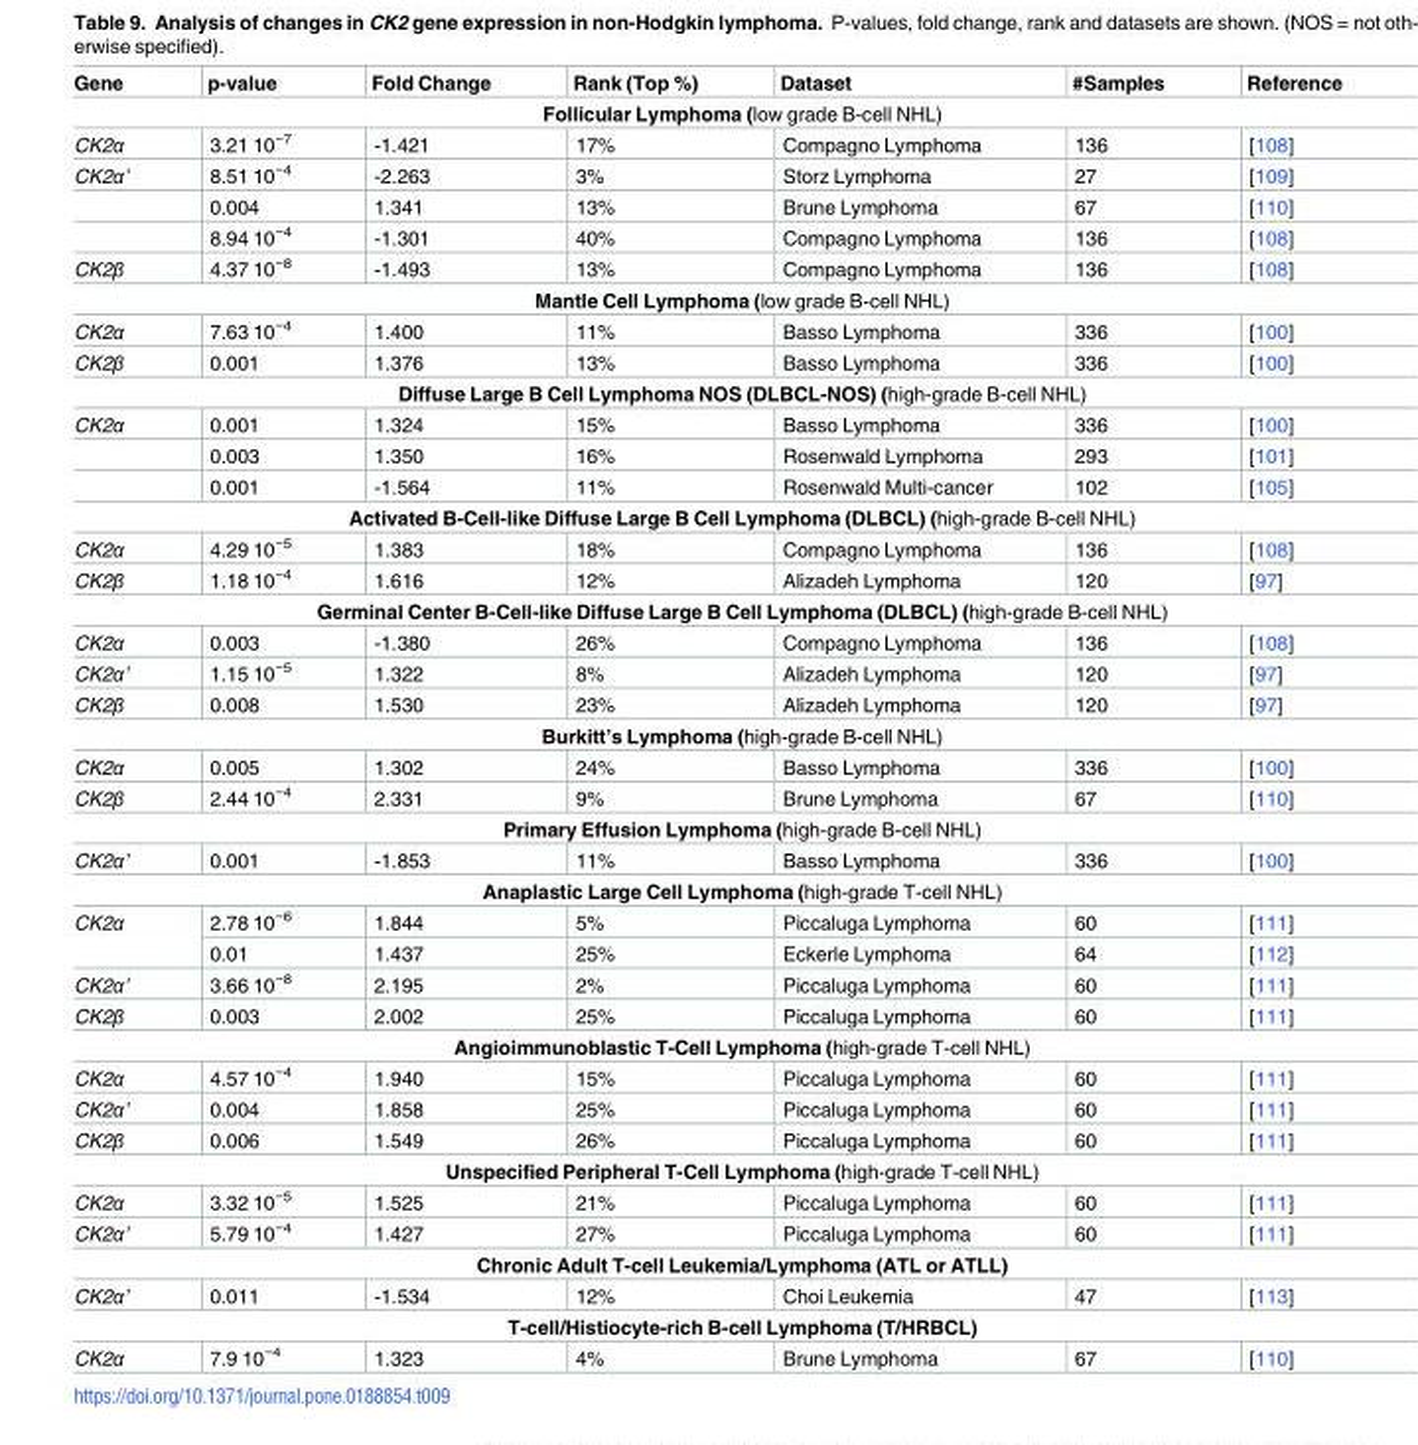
<table><thead><tr><td>Gene</td><td>p-value</td><td>Fold Change</td><td>Rank (Top %)</td><td>Dataset</td><td>#Samples</td><td>Reference</td></tr></thead><tbody><tr><td colspan="7">Follicular Lymphoma (low grade B-cell NHL)</td></tr><tr><td>CK2α</td><td>3.21 10<sup>−7</sup></td><td>-1.421</td><td>17%</td><td>Compagno Lymphoma</td><td>136</td><td>[108]</td></tr><tr><td rowspan="3">CK2α’</td><td>8.51 10<sup>−4</sup></td><td>-2.263</td><td>3%</td><td>Storz Lymphoma</td><td>27</td><td>[109]</td></tr><tr><td>0.004</td><td>1.341</td><td>13%</td><td>Brune Lymphoma</td><td>67</td><td>[110]</td></tr><tr><td>8.94 10<sup>−4</sup></td><td>-1.301</td><td>40%</td><td>Compagno Lymphoma</td><td>136</td><td>[108]</td></tr><tr><td>CK2β</td><td>4.37 10<sup>−8</sup></td><td>-1.493</td><td>13%</td><td>Compagno Lymphoma</td><td>136</td><td>[108]</td></tr><tr><td colspan="7">Mantle Cell Lymphoma (low grade B-cell NHL)</td></tr><tr><td>CK2α</td><td>7.63 10<sup>−4</sup></td><td>1.400</td><td>11%</td><td>Basso Lymphoma</td><td>336</td><td>[100]</td></tr><tr><td>CK2β</td><td>0.001</td><td>1.376</td><td>13%</td><td>Basso Lymphoma</td><td>336</td><td>[100]</td></tr><tr><td colspan="7">Diffuse Large B Cell Lymphoma NOS (DLBCL-NOS) (high-grade B-cell NHL)</td></tr><tr><td rowspan="3">CK2α</td><td>0.001</td><td>1.324</td><td>15%</td><td>Basso Lymphoma</td><td>336</td><td>[100]</td></tr><tr><td>0.003</td><td>1.350</td><td>16%</td><td>Rosenwald Lymphoma</td><td>293</td><td>[101]</td></tr><tr><td>0.001</td><td>-1.564</td><td>11%</td><td>Rosenwald Multi-cancer</td><td>102</td><td>[105]</td></tr><tr><td colspan="7">Activated B-Cell-like Diffuse Large B Cell Lymphoma (DLBCL) (high-grade B-cell NHL)</td></tr><tr><td>CK2α</td><td>4.29 10<sup>−5</sup></td><td>1.383</td><td>18%</td><td>Compagno Lymphoma</td><td>136</td><td>[108]</td></tr><tr><td>CK2β</td><td>1.18 10<sup>−4</sup></td><td>1.616</td><td>12%</td><td>Alizadeh Lymphoma</td><td>120</td><td>[97]</td></tr><tr><td colspan="7">Germinal Center B-Cell-like Diffuse Large B Cell Lymphoma (DLBCL) (high-grade B-cell NHL)</td></tr><tr><td>CK2α</td><td>0.003</td><td>-1.380</td><td>26%</td><td>Compagno Lymphoma</td><td>136</td><td>[108]</td></tr><tr><td>CK2α’</td><td>1.15 10<sup>−5</sup></td><td>1.322</td><td>8%</td><td>Alizadeh Lymphoma</td><td>120</td><td>[97]</td></tr><tr><td>CK2β</td><td>0.008</td><td>1.530</td><td>23%</td><td>Alizadeh Lymphoma</td><td>120</td><td>[97]</td></tr><tr><td colspan="7">Burkitt’s Lymphoma (high-grade B-cell NHL)</td></tr><tr><td>CK2α</td><td>0.005</td><td>1.302</td><td>24%</td><td>Basso Lymphoma</td><td>336</td><td>[100]</td></tr><tr><td>CK2β</td><td>2.44 10<sup>−4</sup></td><td>2.331</td><td>9%</td><td>Brune Lymphoma</td><td>67</td><td>[110]</td></tr><tr><td colspan="7">Primary Effusion Lymphoma (high-grade B-cell NHL)</td></tr><tr><td>CK2α’</td><td>0.001</td><td>-1.853</td><td>11%</td><td>Basso Lymphoma</td><td>336</td><td>[100]</td></tr><tr><td colspan="7">Anaplastic Large Cell Lymphoma (high-grade T-cell NHL)</td></tr><tr><td rowspan="2">CK2α</td><td>2.78 10<sup>−6</sup></td><td>1.844</td><td>5%</td><td>Piccaluga Lymphoma</td><td>60</td><td>[111]</td></tr><tr><td>0.01</td><td>1.437</td><td>25%</td><td>Eckerle Lymphoma</td><td>64</td><td>[112]</td></tr><tr><td>CK2α’</td><td>3.66 10<sup>−8</sup></td><td>2.195</td><td>2%</td><td>Piccaluga Lymphoma</td><td>60</td><td>[111]</td></tr><tr><td>CK2β</td><td>0.003</td><td>2.002</td><td>25%</td><td>Piccaluga Lymphoma</td><td>60</td><td>[111]</td></tr><tr><td colspan="7">Angioimmunoblastic T-Cell Lymphoma (high-grade T-cell NHL)</td></tr><tr><td>CK2α</td><td>4.57 10<sup>−4</sup></td><td>1.940</td><td>15%</td><td>Piccaluga Lymphoma</td><td>60</td><td>[111]</td></tr><tr><td>CK2α’</td><td>0.004</td><td>1.858</td><td>25%</td><td>Piccaluga Lymphoma</td><td>60</td><td>[111]</td></tr><tr><td>CK2β</td><td>0.006</td><td>1.549</td><td>26%</td><td>Piccaluga Lymphoma</td><td>60</td><td>[111]</td></tr><tr><td colspan="7">Unspecified Peripheral T-Cell Lymphoma (high-grade T-cell NHL)</td></tr><tr><td>CK2α</td><td>3.32 10<sup>−5</sup></td><td>1.525</td><td>21%</td><td>Piccaluga Lymphoma</td><td>60</td><td>[111]</td></tr><tr><td>CK2α’</td><td>5.79 10<sup>−4</sup></td><td>1.427</td><td>27%</td><td>Piccaluga Lymphoma</td><td>60</td><td>[111]</td></tr><tr><td colspan="7">Chronic Adult T-cell Leukemia/Lymphoma (ATL or ATLL)</td></tr><tr><td>CK2α’</td><td>0.011</td><td>-1.534</td><td>12%</td><td>Choi Leukemia</td><td>47</td><td>[113]</td></tr><tr><td colspan="7">T-cell/Histiocyte-rich B-cell Lymphoma (T/HRBCL)</td></tr><tr><td>CK2α</td><td>7.9 10<sup>−4</sup></td><td>1.323</td><td>4%</td><td>Brune Lymphoma</td><td>67</td><td>[110]</td></tr></tbody></table>